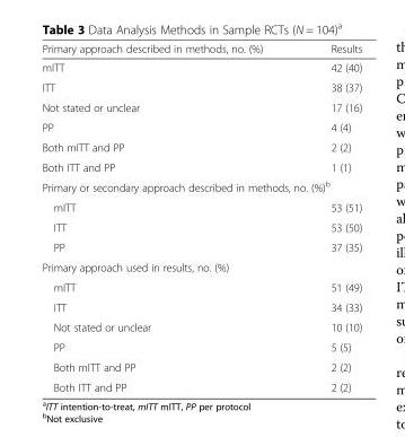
<table><thead><tr><td>Primary approach described in methods, no. (%)</td><td>Results</td></tr></thead><tbody><tr><td>mITT</td><td>42 (40)</td></tr><tr><td>ITT</td><td>38 (37)</td></tr><tr><td>Not stated or unclear</td><td>17 (16)</td></tr><tr><td>PP</td><td>4 (4)</td></tr><tr><td>Both mITT and PP</td><td>2 (2)</td></tr><tr><td>Both ITT and PP</td><td>1 (1)</td></tr><tr><td colspan="2">Primary or secondary approach described in methods, no. (%)<sup>b</sup></td></tr><tr><td>mITT</td><td>53 (51)</td></tr><tr><td>ITT</td><td>53 (50)</td></tr><tr><td>PP</td><td>37 (35)</td></tr><tr><td colspan="2">Primary approach used in results, no. (%)</td></tr><tr><td>mITT</td><td>51 (49)</td></tr><tr><td>ITT</td><td>34 (33)</td></tr><tr><td>Not stated or unclear</td><td>10 (10)</td></tr><tr><td>PP</td><td>5 (5)</td></tr><tr><td>Both mITT and PP</td><td>2 (2)</td></tr><tr><td>Both ITT and PP</td><td>2 (2)</td></tr></tbody></table>